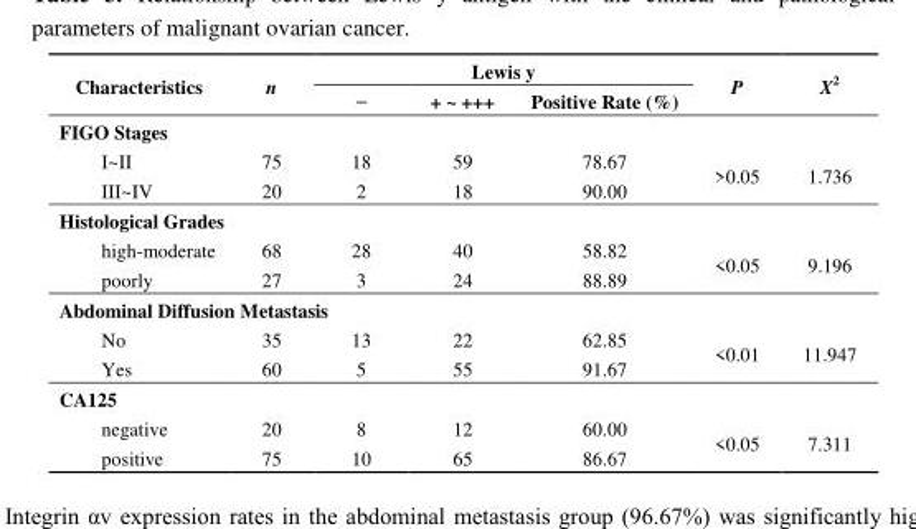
<table><thead><tr><td rowspan="2">Characteristics</td><td rowspan="2">n</td><td colspan="3">Lewis y</td><td rowspan="2">P</td><td rowspan="2">X<sup>2</sup></td></tr><tr><td>−</td><td>+ ~ +++</td><td>Positive Rate (%)</td></tr></thead><tbody><tr><td colspan="7">FIGO Stages</td></tr><tr><td>I~II</td><td>75</td><td>18</td><td>59</td><td>78.67</td><td rowspan="2">&gt;0.05</td><td rowspan="2">1.736</td></tr><tr><td>III~IV</td><td>20</td><td>2</td><td>18</td><td>90.00</td></tr><tr><td colspan="7">Histological Grades</td></tr><tr><td>high-moderate</td><td>68</td><td>28</td><td>40</td><td>58.82</td><td rowspan="2">&lt;0.05</td><td rowspan="2">9.196</td></tr><tr><td>poorly</td><td>27</td><td>3</td><td>24</td><td>88.89</td></tr><tr><td colspan="7">Abdominal Diffusion Metastasis</td></tr><tr><td>No</td><td>35</td><td>13</td><td>22</td><td>62.85</td><td rowspan="2">&lt;0.01</td><td rowspan="2">11.947</td></tr><tr><td>Yes</td><td>60</td><td>5</td><td>55</td><td>91.67</td></tr><tr><td colspan="7">CA125</td></tr><tr><td>negative</td><td>20</td><td>8</td><td>12</td><td>60.00</td><td rowspan="2">&lt;0.05</td><td rowspan="2">7.311</td></tr><tr><td>positive</td><td>75</td><td>10</td><td>65</td><td>86.67</td></tr></tbody></table>